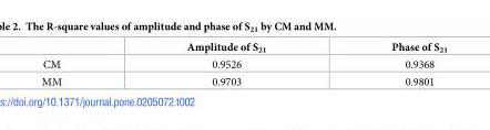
<table><thead><tr><td></td><td>Amplitude of S<sub>21</sub></td><td>Phase of S<sub>21</sub></td></tr></thead><tbody><tr><td>CM</td><td>0.9526</td><td>0.9368</td></tr><tr><td>MM</td><td>0.9703</td><td>0.9801</td></tr></tbody></table>